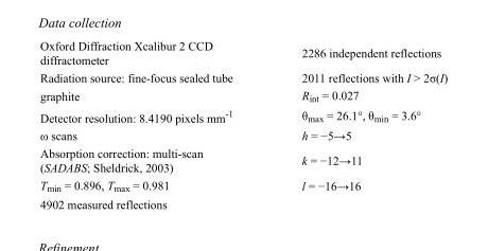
<table><tbody><tr><td>Oxford Diffraction Xcalibur 2 CCD diffractometer</td><td>2286 independent reflections</td></tr><tr><td>Radiation source: fine-focus sealed tube</td><td>2011 reflections with I &gt; 2σ(I)</td></tr><tr><td>graphite</td><td>R<sub>int</sub> = 0.027</td></tr><tr><td>Detector resolution: 8.4190 pixels mm<sup>-1</sup></td><td>θ<sub>max</sub> = 26.1°, θ<sub>min</sub> = 3.6°</td></tr><tr><td>ω scans</td><td>h = −5→5</td></tr><tr><td>Absorption correction: multi-scan (SADABS; Sheldrick, 2003)</td><td>k = −12→11</td></tr><tr><td>T<sub>min</sub> = 0.896, T<sub>max</sub> = 0.981</td><td>l = −16→16</td></tr><tr><td>4902 measured reflections</td><td></td></tr></tbody></table>